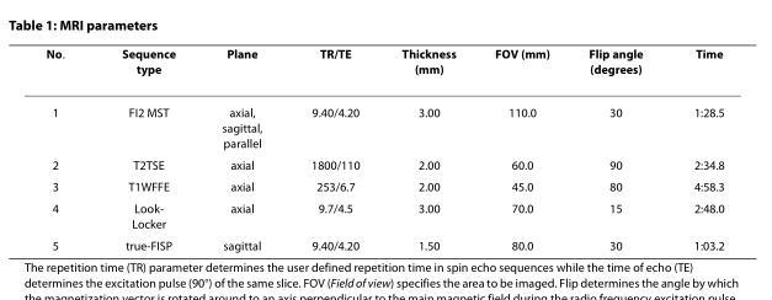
<table><thead><tr><td>No.</td><td>Sequence type</td><td>Plane</td><td>TR/TE</td><td>Thickness (mm)</td><td>FOV (mm)</td><td>Flip angle (degrees)</td><td>Time</td></tr></thead><tbody><tr><td>1</td><td>FI2 MST</td><td>axial, sagittal, parallel</td><td>9.40/4.20</td><td>3.00</td><td>110.0</td><td>30</td><td>1:28.5</td></tr><tr><td>2</td><td>T2TSE</td><td>axial</td><td>1800/110</td><td>2.00</td><td>60.0</td><td>90</td><td>2:34.8</td></tr><tr><td>3</td><td>T1WFFE</td><td>axial</td><td>253/6.7</td><td>2.00</td><td>45.0</td><td>80</td><td>4:58.3</td></tr><tr><td>4</td><td>Look- Locker</td><td>axial</td><td>9.7/4.5</td><td>3.00</td><td>70.0</td><td>15</td><td>2:48.0</td></tr><tr><td>5</td><td>true-FISP</td><td>sagittal</td><td>9.40/4.20</td><td>1.50</td><td>80.0</td><td>30</td><td>1:03.2</td></tr></tbody></table>